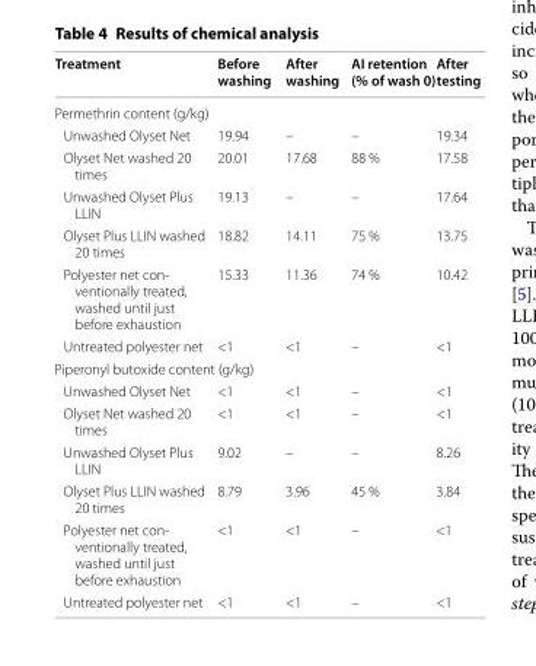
<table><thead><tr><td>Treatment</td><td>Before washing</td><td>After washing</td><td>AI retention (% of wash 0)</td><td>After testing</td></tr></thead><tbody><tr><td colspan="5">Permethrin content (g/kg)</td></tr><tr><td>Unwashed Olyset Net</td><td>19.94</td><td>–</td><td>–</td><td>19.34</td></tr><tr><td>Olyset Net washed 20 times</td><td>20.01</td><td>17.68</td><td>88 %</td><td>17.58</td></tr><tr><td>Unwashed Olyset Plus LLIN</td><td>19.13</td><td>–</td><td>–</td><td>17.64</td></tr><tr><td>Olyset Plus LLIN washed 20 times</td><td>18.82</td><td>14.11</td><td>75 %</td><td>13.75</td></tr><tr><td>Polyester net con- ventionally treated, washed until just before exhaustion</td><td>15.33</td><td>11.36</td><td>74 %</td><td>10.42</td></tr><tr><td>Untreated polyester net</td><td>&lt;1</td><td>&lt;1</td><td>–</td><td>&lt;1</td></tr><tr><td colspan="5">Piperonyl butoxide content (g/kg)</td></tr><tr><td>Unwashed Olyset Net</td><td>&lt;1</td><td>&lt;1</td><td>–</td><td>&lt;1</td></tr><tr><td>Olyset Net washed 20 times</td><td>&lt;1</td><td>&lt;1</td><td>–</td><td>&lt;1</td></tr><tr><td>Unwashed Olyset Plus LLIN</td><td>9.02</td><td>–</td><td>–</td><td>8.26</td></tr><tr><td>Olyset Plus LLIN washed 20 times</td><td>8.79</td><td>3.96</td><td>45 %</td><td>3.84</td></tr><tr><td>Polyester net con- ventionally treated, washed until just before exhaustion</td><td>&lt;1</td><td>&lt;1</td><td>–</td><td>&lt;1</td></tr><tr><td>Untreated polyester net</td><td>&lt;1</td><td>&lt;1</td><td>–</td><td>&lt;1</td></tr></tbody></table>